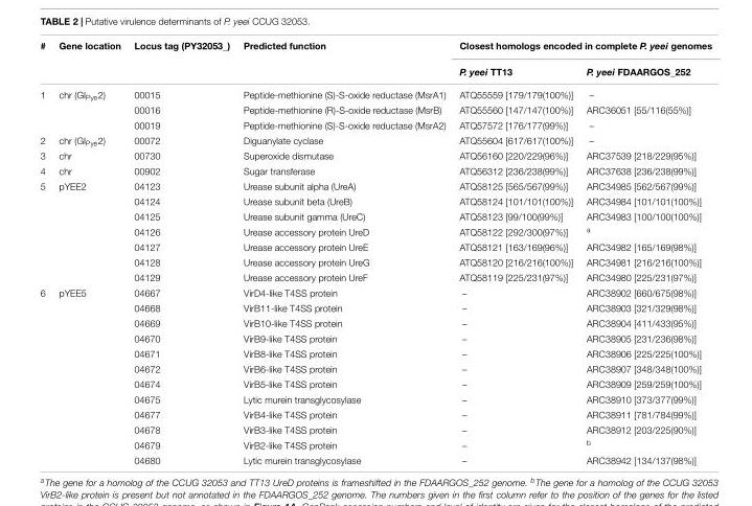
<table><thead><tr><td rowspan="2">#</td><td rowspan="2">Gene location</td><td rowspan="2">Locus tag (PY32053_)</td><td rowspan="2">Predicted function</td><td colspan="2">Closest homologs encoded in complete P. yeei genomes</td></tr><tr><td>P. yeei TT13</td><td>P. yeei FDAARGOS_252</td></tr></thead><tbody><tr><td rowspan="3">1</td><td>chr (GI<sub>Pye</sub>2)</td><td>00015</td><td>Peptide-methionine (S)-S-oxide reductase (MsrA1)</td><td>ATQ55559 [179/179(100%)]</td><td>–</td></tr><tr><td></td><td>00016</td><td>Peptide-methionine (R)-S-oxide reductase (MsrB)</td><td>ATQ55560 [147/147(100%)]</td><td>ARC36051 [55/116(55%)]</td></tr><tr><td></td><td>00019</td><td>Peptide-methionine (S)-S-oxide reductase (MsrA2)</td><td>ATQ57572 [176/177(99%)]</td><td>–</td></tr><tr><td>2</td><td>chr (GI<sub>Pye</sub>2)</td><td>00072</td><td>Diguanylate cyclase</td><td>ATQ55604 [617/617(100%)]</td><td>–</td></tr><tr><td>3</td><td>chr</td><td>00730</td><td>Superoxide dismutase</td><td>ATQ56160 [220/229(96%)]</td><td>ARC37539 [218/229(95%)]</td></tr><tr><td>4</td><td>chr</td><td>00902</td><td>Sugar transferase</td><td>ATQ56312 [236/238(99%)]</td><td>ARC37638 [236/238(99%)]</td></tr><tr><td rowspan="7">5</td><td>pYEE2</td><td>04123</td><td>Urease subunit alpha (UreA)</td><td>ATQ58125 [565/567(99%)]</td><td>ARC34985 [562/567(99%)]</td></tr><tr><td></td><td>04124</td><td>Urease subunit beta (UreB)</td><td>ATQ58124 [101/101(100%)]</td><td>ARC34984 [101/101(100%)]</td></tr><tr><td></td><td>04125</td><td>Urease subunit gamma (UreC)</td><td>ATQ58123 [99/100(99%)]</td><td>ARC34983 [100/100(100%)]</td></tr><tr><td></td><td>04126</td><td>Urease accessory protein UreD</td><td>ATQ58122 [292/300(97%)]</td><td><sup>a</sup></td></tr><tr><td></td><td>04127</td><td>Urease accessory protein UreE</td><td>ATQ58121 [163/169(96%)]</td><td>ARC34982 [165/169(98%)]</td></tr><tr><td></td><td>04128</td><td>Urease accessory protein UreG</td><td>ATQ58120 [216/216(100%)]</td><td>ARC34981 [216/216(100%)]</td></tr><tr><td></td><td>04129</td><td>Urease accessory protein UreF</td><td>ATQ58119 [225/231(97%)]</td><td>ARC34980 [225/231(97%)]</td></tr><tr><td rowspan="12">6</td><td>pYEE5</td><td>04667</td><td>VirD4-like T4SS protein</td><td>–</td><td>ARC38902 [660/675(98%)]</td></tr><tr><td></td><td>04668</td><td>VirB11-like T4SS protein</td><td>–</td><td>ARC38903 [321/329(98%)]</td></tr><tr><td></td><td>04669</td><td>VirB10-like T4SS protein</td><td>–</td><td>ARC38904 [411/433(95%)]</td></tr><tr><td></td><td>04670</td><td>VirB9-like T4SS protein</td><td>–</td><td>ARC38905 [231/236(98%)]</td></tr><tr><td></td><td>04671</td><td>VirB8-like T4SS protein</td><td>–</td><td>ARC38906 [225/225(100%)]</td></tr><tr><td></td><td>04672</td><td>VirB6-like T4SS protein</td><td>–</td><td>ARC38907 [348/348(100%)]</td></tr><tr><td></td><td>04674</td><td>VirB5-like T4SS protein</td><td>–</td><td>ARC38909 [259/259(100%)]</td></tr><tr><td></td><td>04675</td><td>Lytic murein transglycosylase</td><td>–</td><td>ARC38910 [373/377(99%)]</td></tr><tr><td></td><td>04677</td><td>VirB4-like T4SS protein</td><td>–</td><td>ARC38911 [781/784(99%)]</td></tr><tr><td></td><td>04678</td><td>VirB3-like T4SS protein</td><td>–</td><td>ARC38912 [203/225(90%)]</td></tr><tr><td></td><td>04679</td><td>VirB2-like T4SS protein</td><td>–</td><td><sup>b</sup></td></tr><tr><td></td><td>04680</td><td>Lytic murein transglycosylase</td><td>–</td><td>ARC38942 [134/137(98%)]</td></tr></tbody></table>